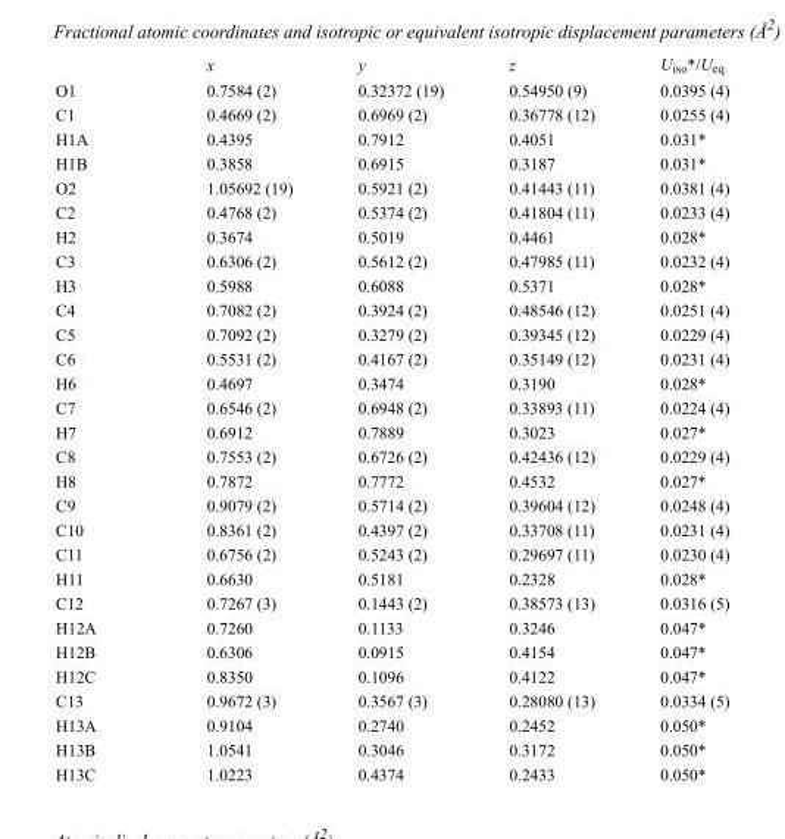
<table><thead><tr><td></td><td>x</td><td>y</td><td>z</td><td>U<sub>iso</sub>*/U<sub>eq</sub></td></tr></thead><tbody><tr><td>O1</td><td>0.7584 (2)</td><td>0.32372 (19)</td><td>0.54950 (9)</td><td>0.0395 (4)</td></tr><tr><td>C1</td><td>0.4669 (2)</td><td>0.6969 (2)</td><td>0.36778 (12)</td><td>0.0255 (4)</td></tr><tr><td>H1A</td><td>0.4395</td><td>0.7912</td><td>0.4051</td><td>0.031*</td></tr><tr><td>H1B</td><td>0.3858</td><td>0.6915</td><td>0.3187</td><td>0.031*</td></tr><tr><td>O2</td><td>1.05692 (19)</td><td>0.5921 (2)</td><td>0.41443 (11)</td><td>0.0381 (4)</td></tr><tr><td>C2</td><td>0.4768 (2)</td><td>0.5374 (2)</td><td>0.41804 (11)</td><td>0.0233 (4)</td></tr><tr><td>H2</td><td>0.3674</td><td>0.5019</td><td>0.4461</td><td>0.028*</td></tr><tr><td>C3</td><td>0.6306 (2)</td><td>0.5612 (2)</td><td>0.47985 (11)</td><td>0.0232 (4)</td></tr><tr><td>H3</td><td>0.5988</td><td>0.6088</td><td>0.5371</td><td>0.028*</td></tr><tr><td>C4</td><td>0.7082 (2)</td><td>0.3924 (2)</td><td>0.48546 (12)</td><td>0.0251 (4)</td></tr><tr><td>C5</td><td>0.7092 (2)</td><td>0.3279 (2)</td><td>0.39345 (12)</td><td>0.0229 (4)</td></tr><tr><td>C6</td><td>0.5531 (2)</td><td>0.4167 (2)</td><td>0.35149 (12)</td><td>0.0231 (4)</td></tr><tr><td>H6</td><td>0.4697</td><td>0.3474</td><td>0.3190</td><td>0.028*</td></tr><tr><td>C7</td><td>0.6546 (2)</td><td>0.6948 (2)</td><td>0.33893 (11)</td><td>0.0224 (4)</td></tr><tr><td>H7</td><td>0.6912</td><td>0.7889</td><td>0.3023</td><td>0.027*</td></tr><tr><td>C8</td><td>0.7553 (2)</td><td>0.6726 (2)</td><td>0.42436 (12)</td><td>0.0229 (4)</td></tr><tr><td>H8</td><td>0.7872</td><td>0.7772</td><td>0.4532</td><td>0.027*</td></tr><tr><td>C9</td><td>0.9079 (2)</td><td>0.5714 (2)</td><td>0.39604 (12)</td><td>0.0248 (4)</td></tr><tr><td>C10</td><td>0.8361 (2)</td><td>0.4397 (2)</td><td>0.33708 (11)</td><td>0.0231 (4)</td></tr><tr><td>C11</td><td>0.6756 (2)</td><td>0.5243 (2)</td><td>0.29697 (11)</td><td>0.0230 (4)</td></tr><tr><td>H11</td><td>0.6630</td><td>0.5181</td><td>0.2328</td><td>0.028*</td></tr><tr><td>C12</td><td>0.7267 (3)</td><td>0.1443 (2)</td><td>0.38573 (13)</td><td>0.0316 (5)</td></tr><tr><td>H12A</td><td>0.7260</td><td>0.1133</td><td>0.3246</td><td>0.047*</td></tr><tr><td>H12B</td><td>0.6306</td><td>0.0915</td><td>0.4154</td><td>0.047*</td></tr><tr><td>H12C</td><td>0.8350</td><td>0.1096</td><td>0.4122</td><td>0.047*</td></tr><tr><td>C13</td><td>0.9672 (3)</td><td>0.3567 (3)</td><td>0.28080 (13)</td><td>0.0334 (5)</td></tr><tr><td>H13A</td><td>0.9104</td><td>0.2740</td><td>0.2452</td><td>0.050*</td></tr><tr><td>H13B</td><td>1.0541</td><td>0.3046</td><td>0.3172</td><td>0.050*</td></tr><tr><td>H13C</td><td>1.0223</td><td>0.4374</td><td>0.2433</td><td>0.050*</td></tr></tbody></table>